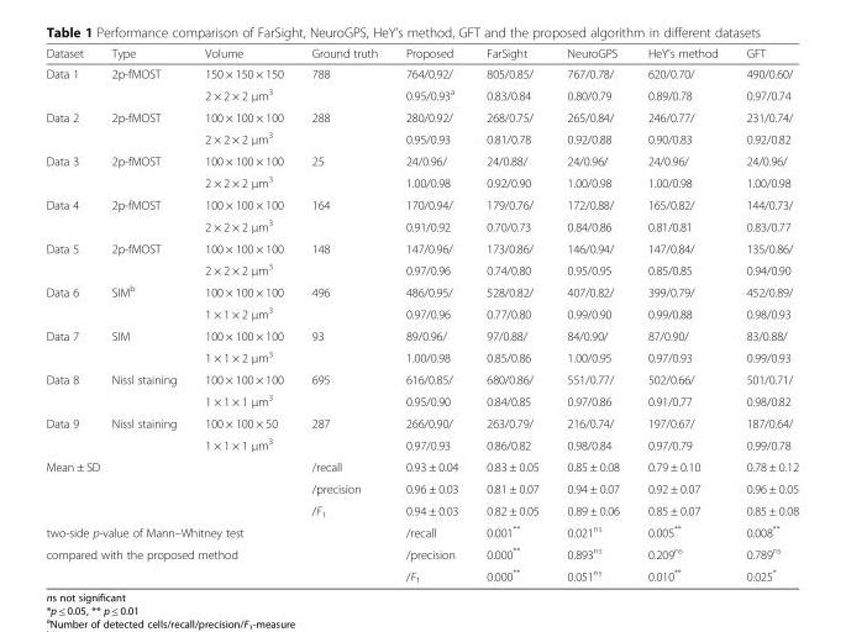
<table><thead><tr><td>Dataset</td><td>Type</td><td>Volume</td><td>Ground truth</td><td>Proposed</td><td>FarSight</td><td>NeuroGPS</td><td>HeY’s method</td><td>GFT</td></tr></thead><tbody><tr><td rowspan="2">Data 1</td><td rowspan="2">2p-fMOST</td><td>150 × 150 × 150</td><td rowspan="2">788</td><td>764/0.92/</td><td>805/0.85/</td><td>767/0.78/</td><td>620/0.70/</td><td>490/0.60/</td></tr><tr><td>2 × 2 × 2 μm<sup>3</sup></td><td>0.95/0.93<sup>a</sup></td><td>0.83/0.84</td><td>0.80/0.79</td><td>0.89/0.78</td><td>0.97/0.74</td></tr><tr><td rowspan="2">Data 2</td><td rowspan="2">2p-fMOST</td><td>100 × 100 × 100</td><td rowspan="2">288</td><td>280/0.92/</td><td>268/0.75/</td><td>265/0.84/</td><td>246/0.77/</td><td>231/0.74/</td></tr><tr><td>2 × 2 × 2 μm<sup>3</sup></td><td>0.95/0.93</td><td>0.81/0.78</td><td>0.92/0.88</td><td>0.90/0.83</td><td>0.92/0.82</td></tr><tr><td rowspan="2">Data 3</td><td rowspan="2">2p-fMOST</td><td>100 × 100 × 100</td><td>25</td><td>24/0.96/</td><td>24/0.88/</td><td>24/0.96/</td><td>24/0.96/</td><td>24/0.96/</td></tr><tr><td>2 × 2 × 2 μm<sup>3</sup></td><td></td><td>1.00/0.98</td><td>0.92/0.90</td><td>1.00/0.98</td><td>1.00/0.98</td><td>1.00/0.98</td></tr><tr><td rowspan="2">Data 4</td><td rowspan="2">2p-fMOST</td><td>100 × 100 × 100</td><td>164</td><td>170/0.94/</td><td>179/0.76/</td><td>172/0.88/</td><td>165/0.82/</td><td>144/0.73/</td></tr><tr><td>2 × 2 × 2 μm<sup>3</sup></td><td></td><td>0.91/0.92</td><td>0.70/0.73</td><td>0.84/0.86</td><td>0.81/0.81</td><td>0.83/0.77</td></tr><tr><td rowspan="2">Data 5</td><td rowspan="2">2p-fMOST</td><td>100 × 100 × 100</td><td>148</td><td>147/0.96/</td><td>173/0.86/</td><td>146/0.94/</td><td>147/0.84/</td><td>135/0.86/</td></tr><tr><td>2 × 2 × 2 μm<sup>3</sup></td><td></td><td>0.97/0.96</td><td>0.74/0.80</td><td>0.95/0.95</td><td>0.85/0.85</td><td>0.94/0.90</td></tr><tr><td rowspan="2">Data 6</td><td rowspan="2">SIM<sup>b</sup></td><td>100 × 100 × 100</td><td>496</td><td>486/0.95/</td><td>528/0.82/</td><td>407/0.82/</td><td>399/0.79/</td><td>452/0.89/</td></tr><tr><td>1 × 1 × 2 μm<sup>3</sup></td><td></td><td>0.97/0.96</td><td>0.77/0.80</td><td>0.99/0.90</td><td>0.99/0.88</td><td>0.98/0.93</td></tr><tr><td rowspan="2">Data 7</td><td rowspan="2">SIM</td><td>100 × 100 × 100</td><td>93</td><td>89/0.96/</td><td>97/0.88/</td><td>84/0.90/</td><td>87/0.90/</td><td>83/0.88/</td></tr><tr><td>1 × 1 × 2 μm<sup>3</sup></td><td></td><td>1.00/0.98</td><td>0.85/0.86</td><td>1.00/0.95</td><td>0.97/0.93</td><td>0.99/0.93</td></tr><tr><td rowspan="2">Data 8</td><td rowspan="2">Nissl staining</td><td>100 × 100 × 100</td><td rowspan="2">695</td><td>616/0.85/</td><td>680/0.86/</td><td>551/0.77/</td><td>502/0.66/</td><td>501/0.71/</td></tr><tr><td>1 × 1 × 1 μm<sup>3</sup></td><td>0.95/0.90</td><td>0.84/0.85</td><td>0.97/0.86</td><td>0.91/0.77</td><td>0.98/0.82</td></tr><tr><td rowspan="2">Data 9</td><td rowspan="2">Nissl staining</td><td>100 × 100 × 50</td><td rowspan="2">287</td><td>266/0.90/</td><td>263/0.79/</td><td>216/0.74/</td><td>197/0.67/</td><td>187/0.64/</td></tr><tr><td>1 × 1 × 1 μm<sup>3</sup></td><td>0.97/0.93</td><td>0.86/0.82</td><td>0.98/0.84</td><td>0.97/0.79</td><td>0.99/0.78</td></tr><tr><td rowspan="3" colspan="3">Mean ± SD</td><td>/recall</td><td>0.93 ± 0.04</td><td>0.83 ± 0.05</td><td>0.85 ± 0.08</td><td>0.79 ± 0.10</td><td>0.78 ± 0.12</td></tr><tr><td>/precision</td><td>0.96 ± 0.03</td><td>0.81 ± 0.07</td><td>0.94 ± 0.07</td><td>0.92 ± 0.07</td><td>0.96 ± 0.05</td></tr><tr><td>/F<sub>1</sub></td><td>0.94 ± 0.03</td><td>0.82 ± 0.05</td><td>0.89 ± 0.06</td><td>0.85 ± 0.07</td><td>0.85 ± 0.08</td></tr><tr><td colspan="4">two-side p-value of Mann–Whitney test</td><td>/recall</td><td>0.001**</td><td>0.021<sup>ns</sup></td><td>0.005**</td><td>0.008**</td></tr><tr><td rowspan="2" colspan="4">compared with the proposed method</td><td>/precision</td><td>0.000**</td><td>0.893<sup>ns</sup></td><td>0.209<sup>ns</sup></td><td>0.789<sup>ns</sup></td></tr><tr><td>/F<sub>1</sub></td><td>0.000**</td><td>0.051<sup>ns</sup></td><td>0.010**</td><td>0.025*</td></tr></tbody></table>